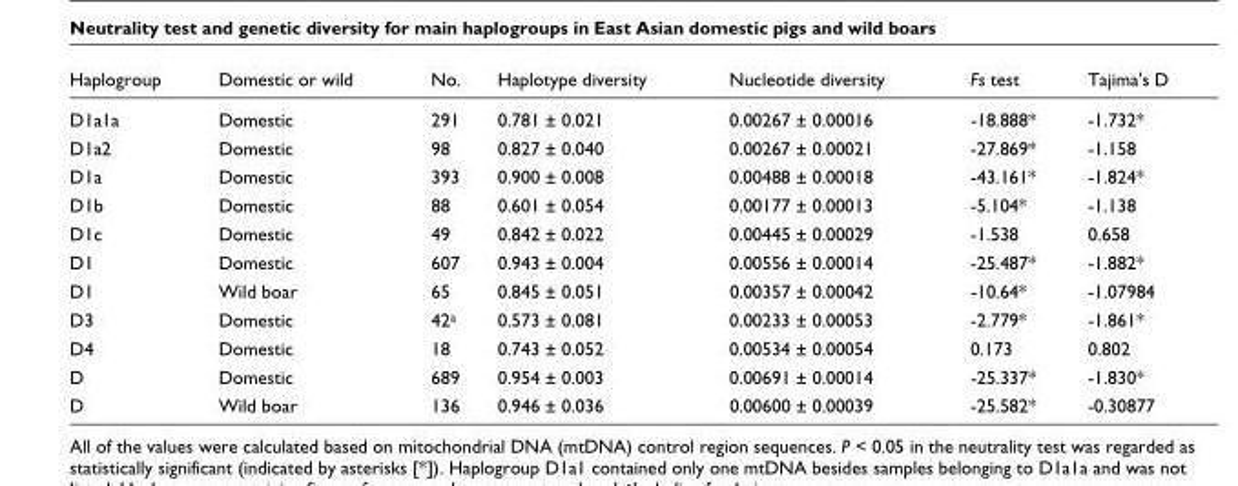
<table><thead><tr><td>Haplogroup</td><td>Domestic or wild</td><td>No.</td><td>Haplotype diversity</td><td>Nucleotide diversity</td><td>Fs test</td><td>Tajima&#x27;s D</td></tr></thead><tbody><tr><td>D1a1a</td><td>Domestic</td><td>291</td><td>0.781 ± 0.021</td><td>0.00267 ± 0.00016</td><td>-18.888*</td><td>-1.732*</td></tr><tr><td>D1a2</td><td>Domestic</td><td>98</td><td>0.827 ± 0.040</td><td>0.00267 ± 0.00021</td><td>-27.869*</td><td>-1.158</td></tr><tr><td>D1a</td><td>Domestic</td><td>393</td><td>0.900 ± 0.008</td><td>0.00488 ± 0.00018</td><td>-43.161*</td><td>-1.824*</td></tr><tr><td>D1b</td><td>Domestic</td><td>88</td><td>0.601 ± 0.054</td><td>0.00177 ± 0.00013</td><td>-5.104*</td><td>-1.138</td></tr><tr><td>D1c</td><td>Domestic</td><td>49</td><td>0.842 ± 0.022</td><td>0.00445 ± 0.00029</td><td>-1.538</td><td>0.658</td></tr><tr><td>D1</td><td>Domestic</td><td>607</td><td>0.943 ± 0.004</td><td>0.00556 ± 0.00014</td><td>-25.487*</td><td>-1.882*</td></tr><tr><td>D1</td><td>Wild boar</td><td>65</td><td>0.845 ± 0.051</td><td>0.00357 ± 0.00042</td><td>-10.64*</td><td>-1.07984</td></tr><tr><td>D3</td><td>Domestic</td><td>42<sup>a</sup></td><td>0.573 ± 0.081</td><td>0.00233 ± 0.00053</td><td>-2.779*</td><td>-1.861*</td></tr><tr><td>D4</td><td>Domestic</td><td>18</td><td>0.743 ± 0.052</td><td>0.00534 ± 0.00054</td><td>0.173</td><td>0.802</td></tr><tr><td>D</td><td>Domestic</td><td>689</td><td>0.954 ± 0.003</td><td>0.00691 ± 0.00014</td><td>-25.337*</td><td>-1.830*</td></tr><tr><td>D</td><td>Wild boar</td><td>136</td><td>0.946 ± 0.036</td><td>0.00600 ± 0.00039</td><td>-25.582*</td><td>-0.30877</td></tr></tbody></table>